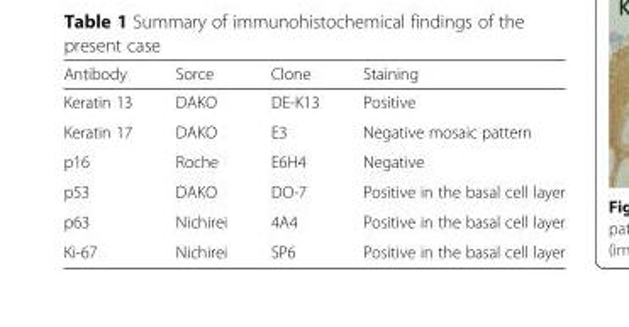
<table><thead><tr><td>Antibody</td><td>Sorce</td><td>Clone</td><td>Staining</td></tr></thead><tbody><tr><td>Keratin 13</td><td>DAKO</td><td>DE-K13</td><td>Positive</td></tr><tr><td>Keratin 17</td><td>DAKO</td><td>E3</td><td>Negative mosaic pattern</td></tr><tr><td>p16</td><td>Roche</td><td>E6H4</td><td>Negative</td></tr><tr><td>p53</td><td>DAKO</td><td>DO-7</td><td>Positive in the basal cell layer</td></tr><tr><td>p63</td><td>Nichirei</td><td>4A4</td><td>Positive in the basal cell layer</td></tr><tr><td>Ki-67</td><td>Nichirei</td><td>SP6</td><td>Positive in the basal cell layer</td></tr></tbody></table>